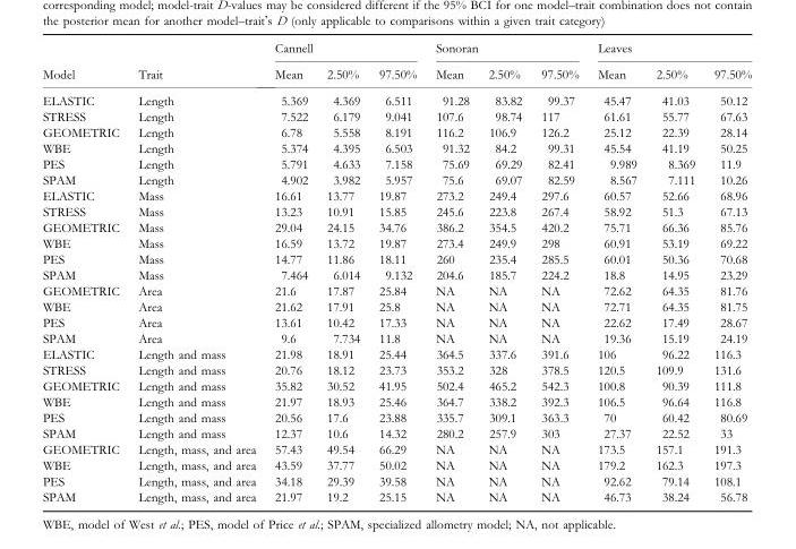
<table><thead><tr><td rowspan="2">Model</td><td rowspan="2">Trait</td><td colspan="3">Cannell</td><td colspan="3">Sonoran</td><td colspan="3">Leaves</td></tr><tr><td>Mean</td><td>2.50%</td><td>97.50%</td><td>Mean</td><td>2.50%</td><td>97.50%</td><td>Mean</td><td>2.50%</td><td>97.50%</td></tr></thead><tbody><tr><td>ELASTIC</td><td>Length</td><td>5.369</td><td>4.369</td><td>6.511</td><td>91.28</td><td>83.82</td><td>99.37</td><td>45.47</td><td>41.03</td><td>50.12</td></tr><tr><td>STRESS</td><td>Length</td><td>7.522</td><td>6.179</td><td>9.041</td><td>107.6</td><td>98.74</td><td>117</td><td>61.61</td><td>55.77</td><td>67.63</td></tr><tr><td>GEOMETRIC</td><td>Length</td><td>6.78</td><td>5.558</td><td>8.191</td><td>116.2</td><td>106.9</td><td>126.2</td><td>25.12</td><td>22.39</td><td>28.14</td></tr><tr><td>WBE</td><td>Length</td><td>5.374</td><td>4.395</td><td>6.503</td><td>91.32</td><td>84.2</td><td>99.31</td><td>45.54</td><td>41.19</td><td>50.25</td></tr><tr><td>PES</td><td>Length</td><td>5.791</td><td>4.633</td><td>7.158</td><td>75.69</td><td>69.29</td><td>82.41</td><td>9.989</td><td>8.369</td><td>11.9</td></tr><tr><td>SPAM</td><td>Length</td><td>4.902</td><td>3.982</td><td>5.957</td><td>75.6</td><td>69.07</td><td>82.59</td><td>8.567</td><td>7.111</td><td>10.26</td></tr><tr><td>ELASTIC</td><td>Mass</td><td>16.61</td><td>13.77</td><td>19.87</td><td>273.2</td><td>249.4</td><td>297.6</td><td>60.57</td><td>52.66</td><td>68.96</td></tr><tr><td>STRESS</td><td>Mass</td><td>13.23</td><td>10.91</td><td>15.85</td><td>245.6</td><td>223.8</td><td>267.4</td><td>58.92</td><td>51.3</td><td>67.13</td></tr><tr><td>GEOMETRIC</td><td>Mass</td><td>29.04</td><td>24.15</td><td>34.76</td><td>386.2</td><td>354.5</td><td>420.2</td><td>75.71</td><td>66.36</td><td>85.76</td></tr><tr><td>WBE</td><td>Mass</td><td>16.59</td><td>13.72</td><td>19.87</td><td>273.4</td><td>249.9</td><td>298</td><td>60.91</td><td>53.19</td><td>69.22</td></tr><tr><td>PES</td><td>Mass</td><td>14.77</td><td>11.86</td><td>18.11</td><td>260</td><td>235.4</td><td>285.5</td><td>60.01</td><td>50.36</td><td>70.68</td></tr><tr><td>SPAM</td><td>Mass</td><td>7.464</td><td>6.014</td><td>9.132</td><td>204.6</td><td>185.7</td><td>224.2</td><td>18.8</td><td>14.95</td><td>23.29</td></tr><tr><td>GEOMETRIC</td><td>Area</td><td>21.6</td><td>17.87</td><td>25.84</td><td>NA</td><td>NA</td><td>NA</td><td>72.62</td><td>64.35</td><td>81.76</td></tr><tr><td>WBE</td><td>Area</td><td>21.62</td><td>17.91</td><td>25.8</td><td>NA</td><td>NA</td><td>NA</td><td>72.71</td><td>64.35</td><td>81.75</td></tr><tr><td>PES</td><td>Area</td><td>13.61</td><td>10.42</td><td>17.33</td><td>NA</td><td>NA</td><td>NA</td><td>22.62</td><td>17.49</td><td>28.67</td></tr><tr><td>SPAM</td><td>Area</td><td>9.6</td><td>7.734</td><td>11.8</td><td>NA</td><td>NA</td><td>NA</td><td>19.36</td><td>15.19</td><td>24.19</td></tr><tr><td>ELASTIC</td><td>Length and mass</td><td>21.98</td><td>18.91</td><td>25.44</td><td>364.5</td><td>337.6</td><td>391.6</td><td>106</td><td>96.22</td><td>116.3</td></tr><tr><td>STRESS</td><td>Length and mass</td><td>20.76</td><td>18.12</td><td>23.73</td><td>353.2</td><td>328</td><td>378.5</td><td>120.5</td><td>109.9</td><td>131.6</td></tr><tr><td>GEOMETRIC</td><td>Length and mass</td><td>35.82</td><td>30.52</td><td>41.95</td><td>502.4</td><td>465.2</td><td>542.3</td><td>100.8</td><td>90.39</td><td>111.8</td></tr><tr><td>WBE</td><td>Length and mass</td><td>21.97</td><td>18.93</td><td>25.46</td><td>364.7</td><td>338.2</td><td>392.3</td><td>106.5</td><td>96.64</td><td>116.8</td></tr><tr><td>PES</td><td>Length and mass</td><td>20.56</td><td>17.6</td><td>23.88</td><td>335.7</td><td>309.1</td><td>363.3</td><td>70</td><td>60.42</td><td>80.69</td></tr><tr><td>SPAM</td><td>Length and mass</td><td>12.37</td><td>10.6</td><td>14.32</td><td>280.2</td><td>257.9</td><td>303</td><td>27.37</td><td>22.52</td><td>33</td></tr><tr><td>GEOMETRIC</td><td>Length, mass, and area</td><td>57.43</td><td>49.54</td><td>66.29</td><td>NA</td><td>NA</td><td>NA</td><td>173.5</td><td>157.1</td><td>191.3</td></tr><tr><td>WBE</td><td>Length, mass, and area</td><td>43.59</td><td>37.77</td><td>50.02</td><td>NA</td><td>NA</td><td>NA</td><td>179.2</td><td>162.3</td><td>197.3</td></tr><tr><td>PES</td><td>Length, mass, and area</td><td>34.18</td><td>29.39</td><td>39.58</td><td>NA</td><td>NA</td><td>NA</td><td>92.62</td><td>79.14</td><td>108.1</td></tr><tr><td>SPAM</td><td>Length, mass, and area</td><td>21.97</td><td>19.2</td><td>25.15</td><td>NA</td><td>NA</td><td>NA</td><td>46.73</td><td>38.24</td><td>56.78</td></tr></tbody></table>